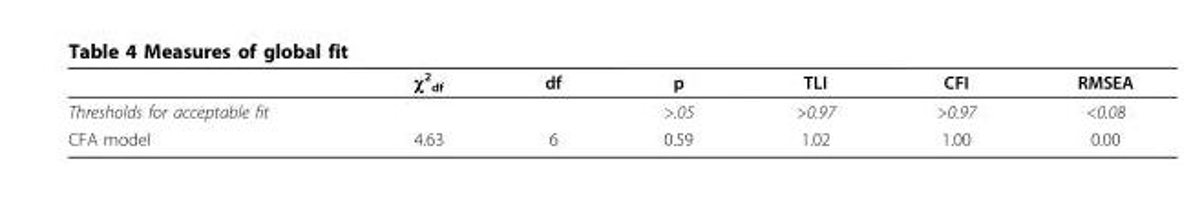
<table><thead><tr><td rowspan="2">Thresholds for acceptable fit</td><td rowspan="2">χ<sup>2</sup> <sub>df</sub></td><td rowspan="2">df</td><td rowspan="2">p &gt;.05</td><td rowspan="2">TLI &gt;0.97</td><td rowspan="2">CFI &gt;0.97</td><td rowspan="2">RMSEA &lt;0.08</td></tr><tr></tr></thead><tbody><tr><td>CFA model</td><td>4.63</td><td>6</td><td>0.59</td><td>1.02</td><td>1.00</td><td>0.00</td></tr></tbody></table>